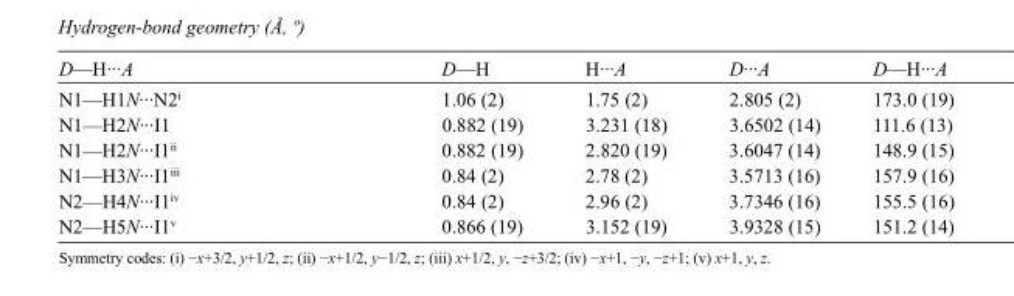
<table><tbody><tr><td>D—H···A</td><td>D—H</td><td>H···A</td><td>D···A</td><td>D—H···A</td></tr><tr><td>N1—H1N···N2<sup>i</sup></td><td>1.06 (2)</td><td>1.75 (2)</td><td>2.805 (2)</td><td>173.0 (19)</td></tr><tr><td>N1—H2N···I1</td><td>0.882 (19)</td><td>3.231 (18)</td><td>3.6502 (14)</td><td>111.6 (13)</td></tr><tr><td>N1—H2N···I1<sup>ii</sup></td><td>0.882 (19)</td><td>2.820 (19)</td><td>3.6047 (14)</td><td>148.9 (15)</td></tr><tr><td>N1—H3N···I1<sup>iii</sup></td><td>0.84 (2)</td><td>2.78 (2)</td><td>3.5713 (16)</td><td>157.9 (16)</td></tr><tr><td>N2—H4N···I1<sup>iv</sup></td><td>0.84 (2)</td><td>2.96 (2)</td><td>3.7346 (16)</td><td>155.5 (16)</td></tr><tr><td>N2—H5N···I1<sup>v</sup></td><td>0.866 (19)</td><td>3.152 (19)</td><td>3.9328 (15)</td><td>151.2 (14)</td></tr></tbody></table>